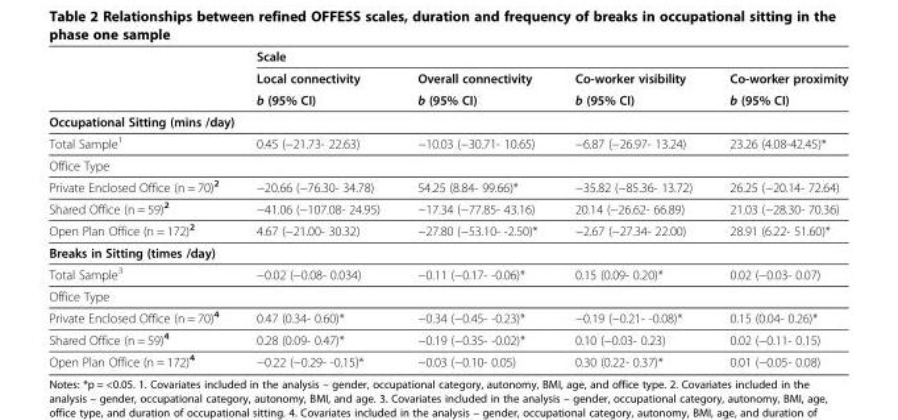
<table><thead><tr><td rowspan="3"></td><td colspan="4">Scale</td></tr><tr><td rowspan="2">Local connectivity b (95% CI)</td><td rowspan="2">Overall connectivity b (95% CI)</td><td rowspan="2">Co-worker visibility b (95% CI)</td><td rowspan="2">Co-worker proximity b (95% CI)</td></tr><tr></tr></thead><tbody><tr><td colspan="5">Occupational Sitting (mins /day)</td></tr><tr><td>Total Sample<sup>1</sup></td><td>0.45 (−21.73- 22.63)</td><td>−10.03 (−30.71- 10.65)</td><td>−6.87 (−26.97- 13.24)</td><td>23.26 (4.08-42.45)*</td></tr><tr><td colspan="5">Office Type</td></tr><tr><td>Private Enclosed Office (n = 70)<sup>2</sup></td><td>−20.66 (−76.30- 34.78)</td><td>54.25 (8.84- 99.66)*</td><td>−35.82 (−85.36- 13.72)</td><td>26.25 (−20.14- 72.64)</td></tr><tr><td>Shared Office (n = 59)<sup>2</sup></td><td>−41.06 (−107.08- 24.95)</td><td>−17.34 (−77.85- 43.16)</td><td>20.14 (−26.62- 66.89)</td><td>21.03 (−28.30- 70.36)</td></tr><tr><td>Open Plan Office (n = 172)<sup>2</sup></td><td>4.67 (−21.00- 30.32)</td><td>−27.80 (−53.10- -2.50)*</td><td>−2.67 (−27.34- 22.00)</td><td>28.91 (6.22- 51.60)*</td></tr><tr><td colspan="5">Breaks in Sitting (times /day)</td></tr><tr><td>Total Sample<sup>3</sup></td><td>−0.02 (−0.08- 0.034)</td><td>−0.11 (−0.17- -0.06)*</td><td>0.15 (0.09- 0.20)*</td><td>0.02 (−0.03- 0.07)</td></tr><tr><td colspan="5">Office Type</td></tr><tr><td>Private Enclosed Office (n = 70)<sup>4</sup></td><td>0.47 (0.34- 0.60)*</td><td>−0.34 (−0.45- -0.23)*</td><td>−0.19 (−0.21- -0.08)*</td><td>0.15 (0.04- 0.26)*</td></tr><tr><td>Shared Office (n = 59)<sup>4</sup></td><td>0.28 (0.09- 0.47)*</td><td>−0.19 (−0.35- -0.02)*</td><td>0.10 (−0.03- 0.23)</td><td>0.02 (−0.11- 0.15)</td></tr><tr><td>Open Plan Office (n = 172)<sup>4</sup></td><td>−0.22 (−0.29- -0.15)*</td><td>−0.03 (−0.10- 0.05)</td><td>0.30 (0.22- 0.37)*</td><td>0.01 (−0.05- 0.08)</td></tr></tbody></table>